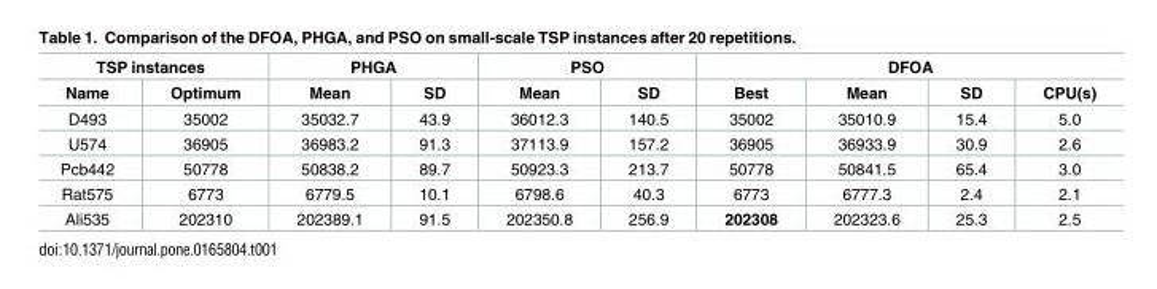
<table><thead><tr><td colspan="2">TSP instances</td><td colspan="2">PHGA</td><td colspan="2">PSO</td><td colspan="4">DFOA</td></tr><tr><td>Name</td><td>Optimum</td><td>Mean</td><td>SD</td><td>Mean</td><td>SD</td><td>Best</td><td>Mean</td><td>SD</td><td>CPU(s)</td></tr></thead><tbody><tr><td>D493</td><td>35002</td><td>35032.7</td><td>43.9</td><td>36012.3</td><td>140.5</td><td>35002</td><td>35010.9</td><td>15.4</td><td>5.0</td></tr><tr><td>U574</td><td>36905</td><td>36983.2</td><td>91.3</td><td>37113.9</td><td>157.2</td><td>36905</td><td>36933.9</td><td>30.9</td><td>2.6</td></tr><tr><td>Pcb442</td><td>50778</td><td>50838.2</td><td>89.7</td><td>50923.3</td><td>213.7</td><td>50778</td><td>50841.5</td><td>65.4</td><td>3.0</td></tr><tr><td>Rat575</td><td>6773</td><td>6779.5</td><td>10.1</td><td>6798.6</td><td>40.3</td><td>6773</td><td>6777.3</td><td>2.4</td><td>2.1</td></tr><tr><td>Ali535</td><td>202310</td><td>202389.1</td><td>91.5</td><td>202350.8</td><td>256.9</td><td>202308</td><td>202323.6</td><td>25.3</td><td>2.5</td></tr></tbody></table>